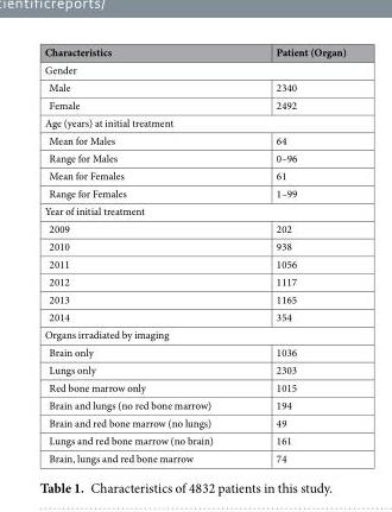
<table><thead><tr><td>Characteristics</td><td>Patient (Organ)</td></tr></thead><tbody><tr><td colspan="2">Gender</td></tr><tr><td>Male</td><td>2340</td></tr><tr><td>Female</td><td>2492</td></tr><tr><td colspan="2">Age (years) at initial treatment</td></tr><tr><td>Mean for Males</td><td>64</td></tr><tr><td>Range for Males</td><td>0–96</td></tr><tr><td>Mean for Females</td><td>61</td></tr><tr><td>Range for Females</td><td>1–99</td></tr><tr><td colspan="2">Year of initial treatment</td></tr><tr><td>2009</td><td>202</td></tr><tr><td>2010</td><td>938</td></tr><tr><td>2011</td><td>1056</td></tr><tr><td>2012</td><td>1117</td></tr><tr><td>2013</td><td>1165</td></tr><tr><td>2014</td><td>354</td></tr><tr><td colspan="2">Organs irradiated by imaging</td></tr><tr><td>Brain only</td><td>1036</td></tr><tr><td>Lungs only</td><td>2303</td></tr><tr><td>Red bone marrow only</td><td>1015</td></tr><tr><td>Brain and lungs (no red bone marrow)</td><td>194</td></tr><tr><td>Brain and red bone marrow (no lungs)</td><td>49</td></tr><tr><td>Lungs and red bone marrow (no brain)</td><td>161</td></tr><tr><td>Brain, lungs and red bone marrow</td><td>74</td></tr></tbody></table>